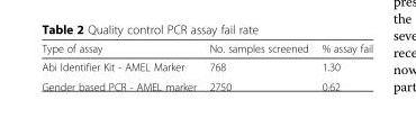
<table><thead><tr><td>Type of assay</td><td>No. samples screened</td><td>% assay fail</td></tr></thead><tbody><tr><td>Abi Identifier Kit - AMEL Marker</td><td>768</td><td>1.30</td></tr><tr><td>Gender based PCR - AMEL marker</td><td>2750</td><td>0.62</td></tr></tbody></table>